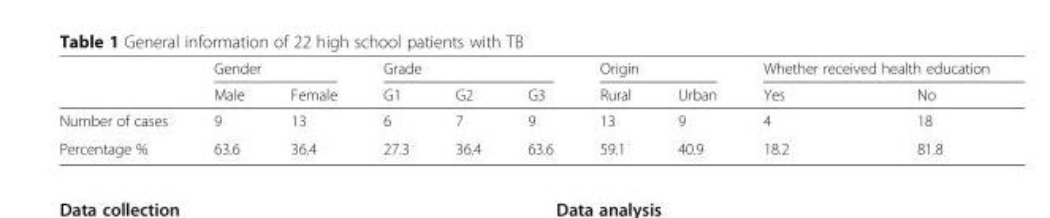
<table><thead><tr><td rowspan="2"></td><td colspan="2">Gender</td><td colspan="3">Grade</td><td colspan="2">Origin</td><td colspan="2">Whether received health education</td></tr><tr><td>Male</td><td>Female</td><td>G1</td><td>G2</td><td>G3</td><td>Rural</td><td>Urban</td><td>Yes</td><td>No</td></tr></thead><tbody><tr><td>Number of cases</td><td>9</td><td>13</td><td>6</td><td>7</td><td>9</td><td>13</td><td>9</td><td>4</td><td>18</td></tr><tr><td>Percentage %</td><td>63.6</td><td>36.4</td><td>27.3</td><td>36.4</td><td>63.6</td><td>59.1</td><td>40.9</td><td>18.2</td><td>81.8</td></tr></tbody></table>